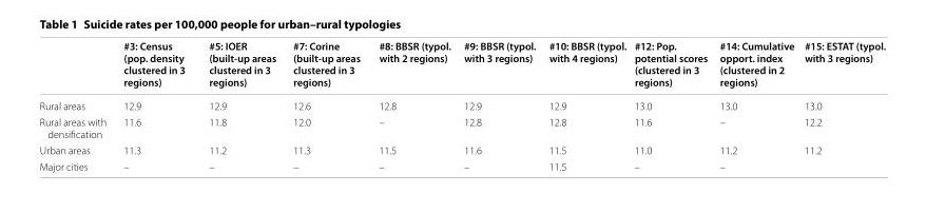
<table><thead><tr><td></td><td>#3: Census (pop. density clustered in 3 regions)</td><td>#5: IOER (built-up areas clustered in 3 regions)</td><td>#7: Corine (built-up areas clustered in 3 regions)</td><td>#8: BBSR (typol. with 2 regions)</td><td>#9: BBSR (typol. with 3 regions)</td><td>#10: BBSR (typol. with 4 regions)</td><td>#12: Pop. potential scores (clustered in 3 regions)</td><td>#14: Cumulative opport. index (clustered in 2 regions)</td><td>#15: ESTAT (typol. with 3 regions)</td></tr></thead><tbody><tr><td>Rural areas</td><td>12.9</td><td>12.9</td><td>12.6</td><td>12.8</td><td>12.9</td><td>12.9</td><td>13.0</td><td>13.0</td><td>13.0</td></tr><tr><td>Rural areas with densification</td><td>11.6</td><td>11.8</td><td>12.0</td><td>–</td><td>12.8</td><td>12.8</td><td>11.6</td><td>–</td><td>12.2</td></tr><tr><td>Urban areas</td><td>11.3</td><td>11.2</td><td>11.3</td><td>11.5</td><td>11.6</td><td>11.5</td><td>11.0</td><td>11.2</td><td>11.2</td></tr><tr><td>Major cities</td><td>–</td><td>–</td><td>–</td><td>–</td><td>–</td><td>11.5</td><td>–</td><td>–</td><td></td></tr></tbody></table>